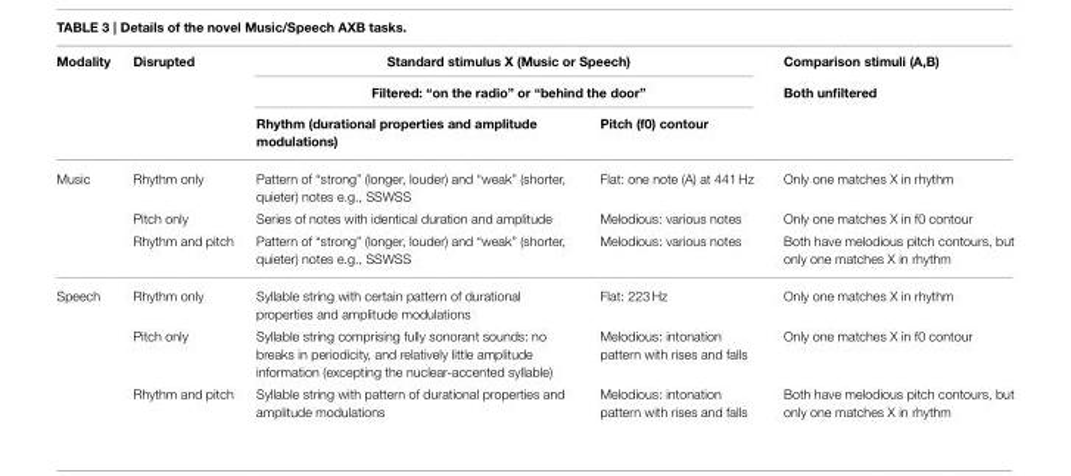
<table><thead><tr><td rowspan="3">Modality</td><td rowspan="3">Disrupted</td><td rowspan="2" colspan="2">Standard stimulus X (Music or Speech) Filtered: “on the radio” or “behind the door”</td><td rowspan="3">Comparison stimuli (A,B) Both unfiltered</td></tr><tr></tr><tr><td>Rhythm (durational properties and amplitude modulations)</td><td>Pitch (f0) contour</td></tr></thead><tbody><tr><td rowspan="3">Music</td><td>Rhythm only</td><td>Pattern of “strong” (longer, louder) and “weak” (shorter, quieter) notes e.g., SSWSS</td><td>Flat: one note (A) at 441 Hz</td><td>Only one matches X in rhythm</td></tr><tr><td>Pitch only</td><td>Series of notes with identical duration and amplitude</td><td>Melodious: various notes</td><td>Only one matches X in f0 contour</td></tr><tr><td>Rhythm and pitch</td><td>Pattern of “strong” (longer, louder) and “weak” (shorter, quieter) notes e.g., SSWSS</td><td>Melodious: various notes</td><td>Both have melodious pitch contours, but only one matches X in rhythm</td></tr><tr><td rowspan="3">Speech</td><td>Rhythm only</td><td>Syllable string with certain pattern of durational properties and amplitude modulations</td><td>Flat: 223 Hz</td><td>Only one matches X in rhythm</td></tr><tr><td>Pitch only</td><td>Syllable string comprising fully sonorant sounds: no breaks in periodicity, and relatively little amplitude information (excepting the nuclear-accented syllable)</td><td>Melodious: intonation pattern with rises and falls</td><td>Only one matches X in f0 contour</td></tr><tr><td>Rhythm and pitch</td><td>Syllable string with pattern of durational properties and amplitude modulations</td><td>Melodious: intonation pattern with rises and falls</td><td>Both have melodious pitch contours, but only one matches X in rhythm</td></tr></tbody></table>